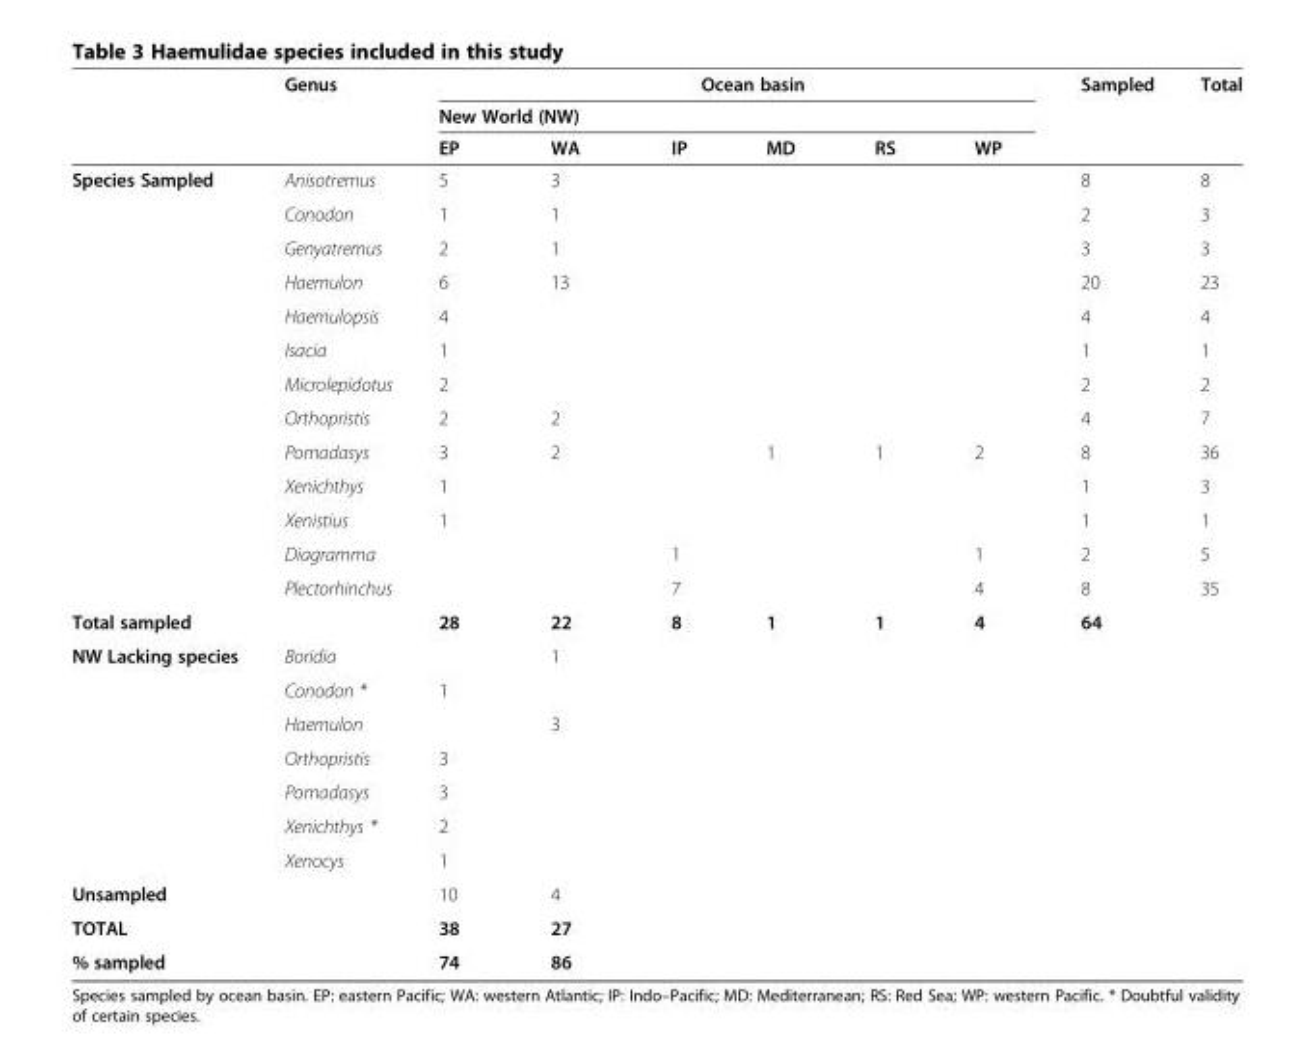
<table><thead><tr><td rowspan="3"></td><td rowspan="3">Genus</td><td rowspan="2" colspan="6">Ocean basin New World (NW)</td><td rowspan="3">Sampled</td><td rowspan="3">Total</td></tr><tr></tr><tr><td>EP</td><td>WA</td><td>IP</td><td>MD</td><td>RS</td><td>WP</td></tr></thead><tbody><tr><td rowspan="13">Species Sampled</td><td>Anisotremus</td><td>5</td><td>3</td><td></td><td></td><td></td><td></td><td>8</td><td>8</td></tr><tr><td>Conodon</td><td>1</td><td>1</td><td></td><td></td><td></td><td></td><td>2</td><td>3</td></tr><tr><td>Genyatremus</td><td>2</td><td>1</td><td></td><td></td><td></td><td></td><td>3</td><td>3</td></tr><tr><td>Haemulon</td><td>6</td><td>13</td><td></td><td></td><td></td><td></td><td>20</td><td>23</td></tr><tr><td>Haemulopsis</td><td>4</td><td></td><td></td><td></td><td></td><td></td><td>4</td><td>4</td></tr><tr><td>Isacia</td><td>1</td><td></td><td></td><td></td><td></td><td></td><td>1</td><td>1</td></tr><tr><td>Microlepidotus</td><td>2</td><td></td><td></td><td></td><td></td><td></td><td>2</td><td>2</td></tr><tr><td>Orthopristis</td><td>2</td><td>2</td><td></td><td></td><td></td><td></td><td>4</td><td>7</td></tr><tr><td>Pomadasys</td><td>3</td><td>2</td><td></td><td>1</td><td>1</td><td>2</td><td>8</td><td>36</td></tr><tr><td>Xenichthys</td><td>1</td><td></td><td></td><td></td><td></td><td></td><td>1</td><td>3</td></tr><tr><td>Xenistius</td><td>1</td><td></td><td></td><td></td><td></td><td></td><td>1</td><td>1</td></tr><tr><td>Diagramma</td><td></td><td></td><td>1</td><td></td><td></td><td>1</td><td>2</td><td>5</td></tr><tr><td>Plectorhinchus</td><td></td><td></td><td>7</td><td></td><td></td><td>4</td><td>8</td><td>35</td></tr><tr><td>Total sampled</td><td></td><td>28</td><td>22</td><td>8</td><td>1</td><td>1</td><td>4</td><td>64</td><td></td></tr><tr><td rowspan="7">NW Lacking species</td><td>Boridia</td><td></td><td>1</td><td></td><td></td><td></td><td></td><td></td><td></td></tr><tr><td>Conodon *</td><td>1</td><td></td><td></td><td></td><td></td><td></td><td></td><td></td></tr><tr><td>Haemulon</td><td></td><td>3</td><td></td><td></td><td></td><td></td><td></td><td></td></tr><tr><td>Orthopristis</td><td>3</td><td></td><td></td><td></td><td></td><td></td><td></td><td></td></tr><tr><td>Pomadasys</td><td>3</td><td></td><td></td><td></td><td></td><td></td><td></td><td></td></tr><tr><td>Xenichthys *</td><td>2</td><td></td><td></td><td></td><td></td><td></td><td></td><td></td></tr><tr><td>Xenocys</td><td>1</td><td></td><td></td><td></td><td></td><td></td><td></td><td></td></tr><tr><td>Unsampled</td><td></td><td>10</td><td>4</td><td></td><td></td><td></td><td></td><td></td><td></td></tr><tr><td>TOTAL</td><td></td><td>38</td><td>27</td><td></td><td></td><td></td><td></td><td></td><td></td></tr><tr><td>% sampled</td><td></td><td>74</td><td>86</td><td></td><td></td><td></td><td></td><td></td><td></td></tr></tbody></table>